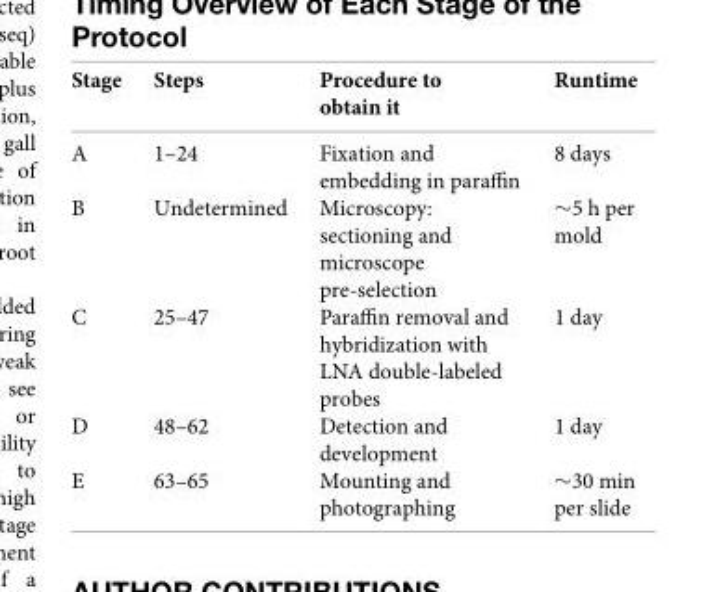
<table><thead><tr><td>Stage</td><td>Steps</td><td>Procedure to obtain it</td><td>Runtime</td></tr></thead><tbody><tr><td>A</td><td>1–24</td><td>Fixation and embedding in paraffin</td><td>8 days</td></tr><tr><td>B</td><td>Undetermined</td><td>Microscopy: sectioning and microscope pre-selection</td><td>∼5 h per mold</td></tr><tr><td>C</td><td>25–47</td><td>Paraffin removal and hybridization with LNA double-labeled probes</td><td>1 day</td></tr><tr><td>D</td><td>48–62</td><td>Detection and development</td><td>1 day</td></tr><tr><td>E</td><td>63–65</td><td>Mounting and photographing</td><td>∼30 min per slide</td></tr></tbody></table>